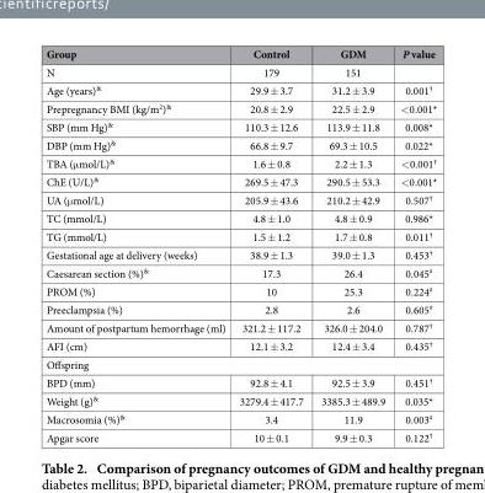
<table><thead><tr><td>Group</td><td>Control</td><td>GDM</td><td>P value</td></tr></thead><tbody><tr><td>N</td><td>179</td><td>151</td><td></td></tr><tr><td>Age (years)<sup>&amp;</sup></td><td>29.9 ± 3.7</td><td>31.2 ± 3.9</td><td>0.001<sup>†</sup></td></tr><tr><td>Prepregnancy BMI (kg/m<sup>2</sup>)<sup>&amp;</sup></td><td>20.8 ± 2.9</td><td>22.5 ± 2.9</td><td>&lt; 0.001*</td></tr><tr><td>SBP (mm Hg)<sup>&amp;</sup></td><td>110.3 ± 12.6</td><td>113.9 ± 11.8</td><td>0.008*</td></tr><tr><td>DBP (mm Hg)<sup>&amp;</sup></td><td>66.8 ± 9.7</td><td>69.3 ± 10.5</td><td>0.022*</td></tr><tr><td>TBA (μ mol/L)<sup>&amp;</sup></td><td>1.6 ± 0.8</td><td>2.2 ± 1.3</td><td>&lt; 0.001<sup>†</sup></td></tr><tr><td>ChE (U/L)<sup>&amp;</sup></td><td>269.5 ± 47.3</td><td>290.5 ± 53.3</td><td>&lt; 0.001*</td></tr><tr><td>UA (μ mol/L)</td><td>205.9 ± 43.6</td><td>210.2 ± 42.9</td><td>0.507<sup>†</sup></td></tr><tr><td>TC (mmol/L)</td><td>4.8 ± 1.0</td><td>4.8 ± 0.9</td><td>0.986*</td></tr><tr><td>TG (mmol/L)</td><td>1.5 ± 1.2</td><td>1.7 ± 0.8</td><td>0.011<sup>†</sup></td></tr><tr><td>Gestational age at delivery (weeks)</td><td>38.9 ± 1.3</td><td>39.0 ± 1.3</td><td>0.453<sup>†</sup></td></tr><tr><td>Caesarean section (%)<sup>&amp;</sup></td><td>17.3</td><td>26.4</td><td>0.045<sup>#</sup></td></tr><tr><td>PROM (%)</td><td>10</td><td>25.3</td><td>0.224<sup>#</sup></td></tr><tr><td>Preeclampsia (%)</td><td>2.8</td><td>2.6</td><td>0.605<sup>#</sup></td></tr><tr><td>Amount of postpartum hemorrhage (ml)</td><td>321.2 ± 117.2</td><td>326.0 ± 204.0</td><td>0.787<sup>†</sup></td></tr><tr><td>AFI (cm)</td><td>12.1 ± 3.2</td><td>12.4 ± 3.4</td><td>0.435<sup>†</sup></td></tr><tr><td colspan="4">Offspring</td></tr><tr><td>BPD (mm)</td><td>92.8 ± 4.1</td><td>92.5 ± 3.9</td><td>0.451<sup>†</sup></td></tr><tr><td>Weight (g)<sup>&amp;</sup></td><td>3279.4 ± 417.7</td><td>3385.3 ± 489.9</td><td>0.035*</td></tr><tr><td>Macrosomia (%)<sup>&amp;</sup></td><td>3.4</td><td>11.9</td><td>0.003<sup>#</sup></td></tr><tr><td>Apgar score</td><td>10 ± 0.1</td><td>9.9 ± 0.3</td><td>0.122<sup>†</sup></td></tr></tbody></table>